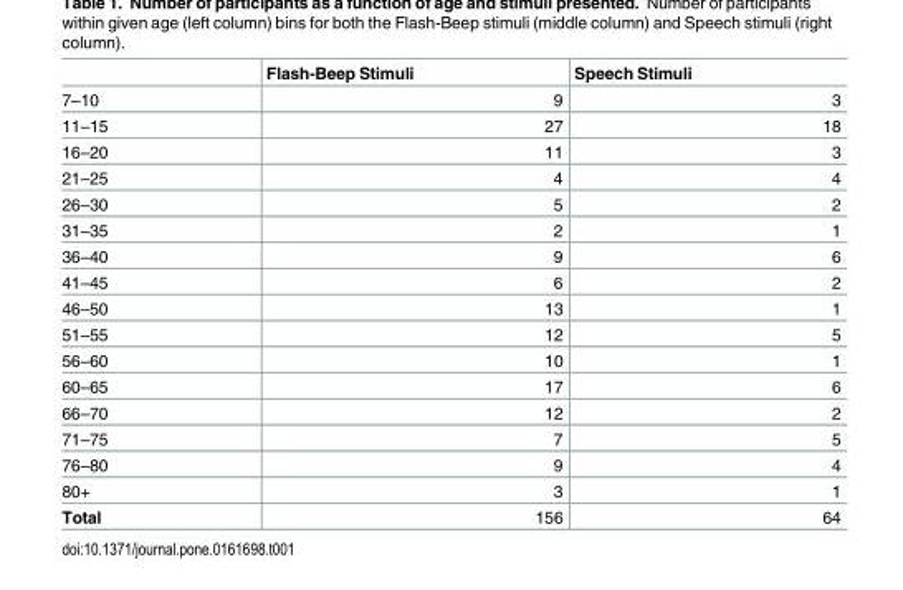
<table><thead><tr><td></td><td>Flash-Beep Stimuli</td><td>Speech Stimuli</td></tr></thead><tbody><tr><td>7–10</td><td>9</td><td>3</td></tr><tr><td>11–15</td><td>27</td><td>18</td></tr><tr><td>16–20</td><td>11</td><td>3</td></tr><tr><td>21–25</td><td>4</td><td>4</td></tr><tr><td>26–30</td><td>5</td><td>2</td></tr><tr><td>31–35</td><td>2</td><td>1</td></tr><tr><td>36–40</td><td>9</td><td>6</td></tr><tr><td>41–45</td><td>6</td><td>2</td></tr><tr><td>46–50</td><td>13</td><td>1</td></tr><tr><td>51–55</td><td>12</td><td>5</td></tr><tr><td>56–60</td><td>10</td><td>1</td></tr><tr><td>60–65</td><td>17</td><td>6</td></tr><tr><td>66–70</td><td>12</td><td>2</td></tr><tr><td>71–75</td><td>7</td><td>5</td></tr><tr><td>76–80</td><td>9</td><td>4</td></tr><tr><td>80+</td><td>3</td><td>1</td></tr><tr><td>Total</td><td>156</td><td>64</td></tr></tbody></table>